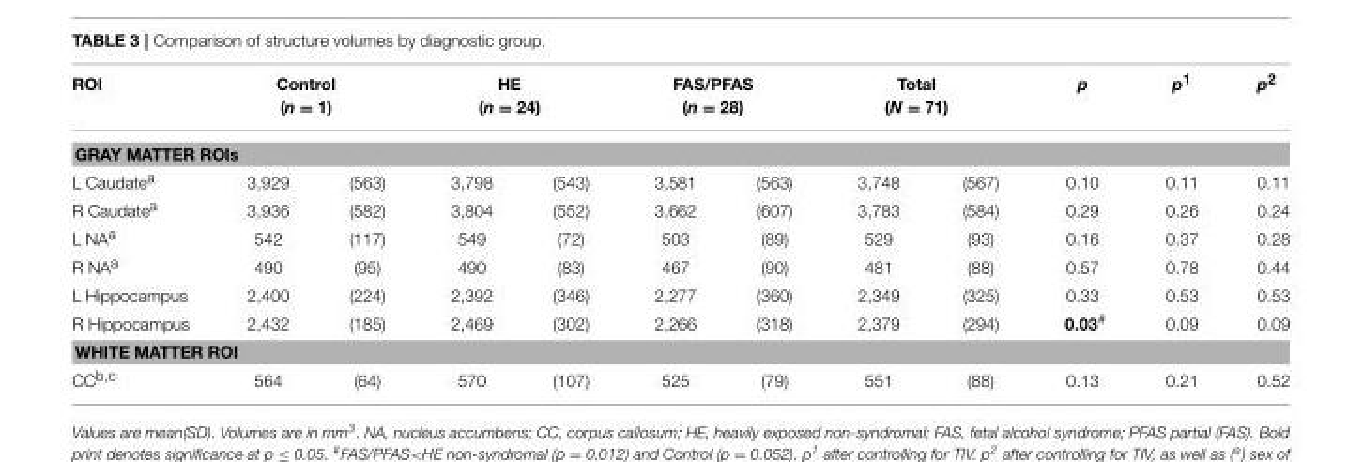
<table><thead><tr><td>ROI</td><td colspan="2">Control (n = 1)</td><td colspan="2">HE (n = 24)</td><td colspan="2">FAS/PFAS (n = 28)</td><td colspan="2">Total (N = 71)</td><td>p</td><td>p<sup>1</sup></td><td>p<sup>2</sup></td></tr><tr><td colspan="12">GRAY MATTER ROIs</td></tr><tr><td>L Caudate<sup>a</sup></td><td>3,929</td><td>(563)</td><td>3,798</td><td>(543)</td><td>3,581</td><td>(563)</td><td>3,748</td><td>(567)</td><td>0.10</td><td>0.11</td><td>0.11</td></tr></thead><tbody><tr><td>R Caudate<sup>a</sup></td><td>3,936</td><td>(582)</td><td>3,804</td><td>(552)</td><td>3,662</td><td>(607)</td><td>3,783</td><td>(584)</td><td>0.29</td><td>0.26</td><td>0.24</td></tr><tr><td>L NA<sup>a</sup></td><td>542</td><td>(117)</td><td>549</td><td>(72)</td><td>503</td><td>(89)</td><td>529</td><td>(93)</td><td>0.16</td><td>0.37</td><td>0.28</td></tr><tr><td>R NA<sup>a</sup></td><td>490</td><td>(95)</td><td>490</td><td>(83)</td><td>467</td><td>(90)</td><td>481</td><td>(88)</td><td>0.57</td><td>0.78</td><td>0.44</td></tr><tr><td>L Hippocampus</td><td>2,400</td><td>(224)</td><td>2,392</td><td>(346)</td><td>2,277</td><td>(360)</td><td>2,349</td><td>(325)</td><td>0.33</td><td>0.53</td><td>0.53</td></tr><tr><td>R Hippocampus</td><td>2,432</td><td>(185)</td><td>2,469</td><td>(302)</td><td>2,266</td><td>(318)</td><td>2,379</td><td>(294)</td><td>0.03<sup>#</sup></td><td>0.09</td><td>0.09</td></tr><tr><td colspan="12">WHITE MATTER ROI</td></tr><tr><td>CC<sup>b,c</sup></td><td>564</td><td>(64)</td><td>570</td><td>(107)</td><td>525</td><td>(79)</td><td>551</td><td>(88)</td><td>0.13</td><td>0.21</td><td>0.52</td></tr></tbody></table>